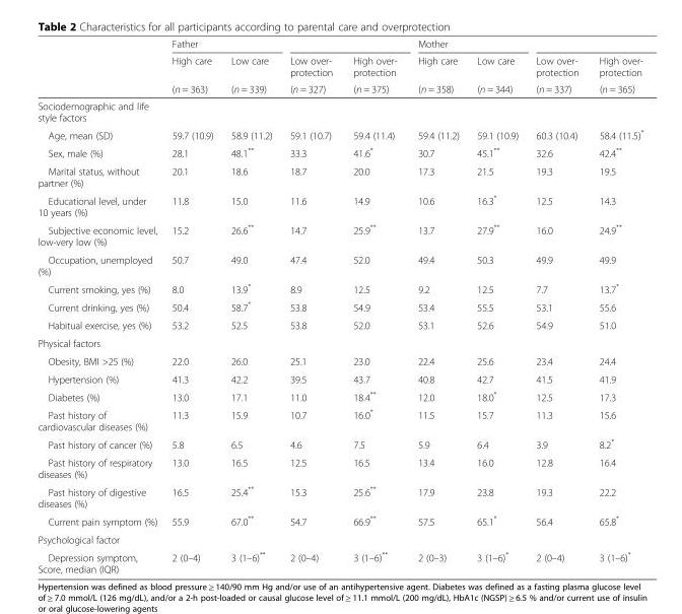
<table><thead><tr><td rowspan="3"></td><td colspan="2">Father</td><td rowspan="3">Low over- protection (n = 327)</td><td rowspan="3">High over- protection (n = 375)</td><td colspan="2">Mother</td><td rowspan="3">Low over- protection (n = 337)</td><td rowspan="3">High over- protection (n = 365)</td></tr><tr><td rowspan="2">High care (n = 363)</td><td rowspan="2">Low care (n = 339)</td><td rowspan="2">High care (n = 358)</td><td rowspan="2">Low care (n = 344)</td></tr><tr></tr></thead><tbody><tr><td colspan="9">Sociodemographic and life style factors</td></tr><tr><td>Age, mean (SD)</td><td>59.7 (10.9)</td><td>58.9 (11.2)</td><td>59.1 (10.7)</td><td>59.4 (11.4)</td><td>59.4 (11.2)</td><td>59.1 (10.9)</td><td>60.3 (10.4)</td><td>58.4 (11.5)*</td></tr><tr><td>Sex, male (%)</td><td>28.1</td><td>48.1**</td><td>33.3</td><td>41.6*</td><td>30.7</td><td>45.1**</td><td>32.6</td><td>42.4**</td></tr><tr><td>Marital status, without partner (%)</td><td>20.1</td><td>18.6</td><td>18.7</td><td>20.0</td><td>17.3</td><td>21.5</td><td>19.3</td><td>19.5</td></tr><tr><td>Educational level, under 10 years (%)</td><td>11.8</td><td>15.0</td><td>11.6</td><td>14.9</td><td>10.6</td><td>16.3*</td><td>12.5</td><td>14.3</td></tr><tr><td>Subjective economic level, low-very low (%)</td><td>15.2</td><td>26.6**</td><td>14.7</td><td>25.9**</td><td>13.7</td><td>27.9**</td><td>16.0</td><td>24.9**</td></tr><tr><td>Occupation, unemployed (%)</td><td>50.7</td><td>49.0</td><td>47.4</td><td>52.0</td><td>49.4</td><td>50.3</td><td>49.9</td><td>49.9</td></tr><tr><td>Current smoking, yes (%)</td><td>8.0</td><td>13.9*</td><td>8.9</td><td>12.5</td><td>9.2</td><td>12.5</td><td>7.7</td><td>13.7*</td></tr><tr><td>Current drinking, yes (%)</td><td>50.4</td><td>58.7*</td><td>53.8</td><td>54.9</td><td>53.4</td><td>55.5</td><td>53.1</td><td>55.6</td></tr><tr><td>Habitual exercise, yes (%)</td><td>53.2</td><td>52.5</td><td>53.8</td><td>52.0</td><td>53.1</td><td>52.6</td><td>54.9</td><td>51.0</td></tr><tr><td colspan="9">Physical factors</td></tr><tr><td>Obesity, BMI &gt;25 (%)</td><td>22.0</td><td>26.0</td><td>25.1</td><td>23.0</td><td>22.4</td><td>25.6</td><td>23.4</td><td>24.4</td></tr><tr><td>Hypertension (%)</td><td>41.3</td><td>42.2</td><td>39.5</td><td>43.7</td><td>40.8</td><td>42.7</td><td>41.5</td><td>41.9</td></tr><tr><td>Diabetes (%)</td><td>13.0</td><td>17.1</td><td>11.0</td><td>18.4**</td><td>12.0</td><td>18.0*</td><td>12.5</td><td>17.3</td></tr><tr><td>Past history of cardiovascular diseases (%)</td><td>11.3</td><td>15.9</td><td>10.7</td><td>16.0*</td><td>11.5</td><td>15.7</td><td>11.3</td><td>15.6</td></tr><tr><td>Past history of cancer (%)</td><td>5.8</td><td>6.5</td><td>4.6</td><td>7.5</td><td>5.9</td><td>6.4</td><td>3.9</td><td>8.2*</td></tr><tr><td>Past history of respiratory diseases (%)</td><td>13.0</td><td>16.5</td><td>12.5</td><td>16.5</td><td>13.4</td><td>16.0</td><td>12.8</td><td>16.4</td></tr><tr><td>Past history of digestive diseases (%)</td><td>16.5</td><td>25.4**</td><td>15.3</td><td>25.6**</td><td>17.9</td><td>23.8</td><td>19.3</td><td>22.2</td></tr><tr><td>Current pain symptom (%)</td><td>55.9</td><td>67.0**</td><td>54.7</td><td>66.9**</td><td>57.5</td><td>65.1*</td><td>56.4</td><td>65.8*</td></tr><tr><td colspan="9">Psychological factor</td></tr><tr><td>Depression symptom, Score, median (IQR)</td><td>2 (0–4)</td><td>3 (1–6)**</td><td>2 (0–4)</td><td>3 (1–6)**</td><td>2 (0–3)</td><td>3 (1–6)*</td><td>2 (0–4)</td><td>3 (1–6)*</td></tr></tbody></table>